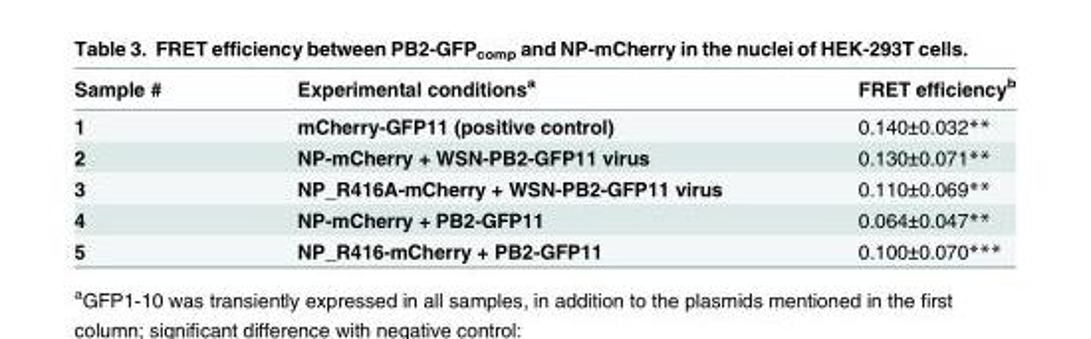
<table><thead><tr><td>Sample #</td><td>Experimental conditions<sup>a</sup></td><td>FRET efficiency<sup>b</sup></td></tr></thead><tbody><tr><td>1</td><td>mCherry-GFP11 (positive control)</td><td>0.140±0.032**</td></tr><tr><td>2</td><td>NP-mCherry + WSN-PB2-GFP11 virus</td><td>0.130±0.071**</td></tr><tr><td>3</td><td>NP_R416A-mCherry + WSN-PB2-GFP11 virus</td><td>0.110±0.069**</td></tr><tr><td>4</td><td>NP-mCherry + PB2-GFP11</td><td>0.064±0.047**</td></tr><tr><td>5</td><td>NP_R416-mCherry + PB2-GFP11</td><td>0.100±0.070***</td></tr></tbody></table>